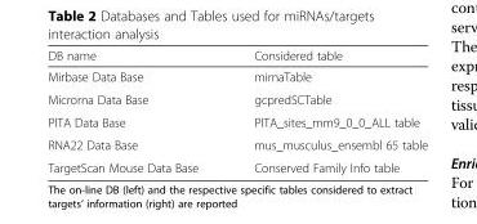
<table><thead><tr><td>DB name</td><td>Considered table</td></tr></thead><tbody><tr><td>Mirbase Data Base</td><td>mirnaTable</td></tr><tr><td>Microrna Data Base</td><td>gcpredSCTable</td></tr><tr><td>PITA Data Base</td><td>PITA_sites_mm9_0_0_ALL table</td></tr><tr><td>RNA22 Data Base</td><td>mus_musculus_ensembl 65 table</td></tr><tr><td>TargetScan Mouse Data Base</td><td>Conserved Family Info table</td></tr></tbody></table>